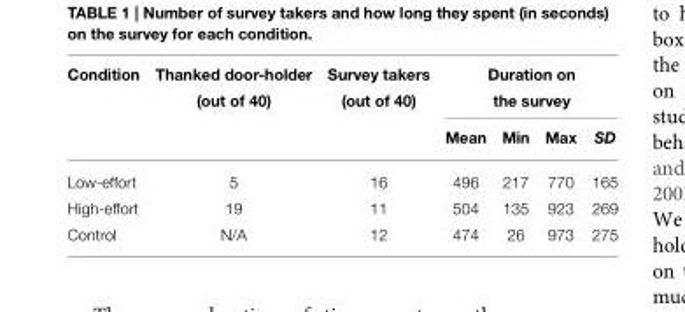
<table><thead><tr><td rowspan="2">Condition</td><td rowspan="2">Thanked door-holder (out of 40)</td><td rowspan="2">Survey takers (out of 40)</td><td colspan="4">Duration on the survey</td></tr><tr><td>Mean</td><td>Min</td><td>Max</td><td>SD</td></tr></thead><tbody><tr><td>Low-effort</td><td>5</td><td>16</td><td>496</td><td>217</td><td>770</td><td>165</td></tr><tr><td>High-effort</td><td>19</td><td>11</td><td>504</td><td>135</td><td>923</td><td>269</td></tr><tr><td>Control</td><td>N/A</td><td>12</td><td>474</td><td>26</td><td>973</td><td>275</td></tr></tbody></table>